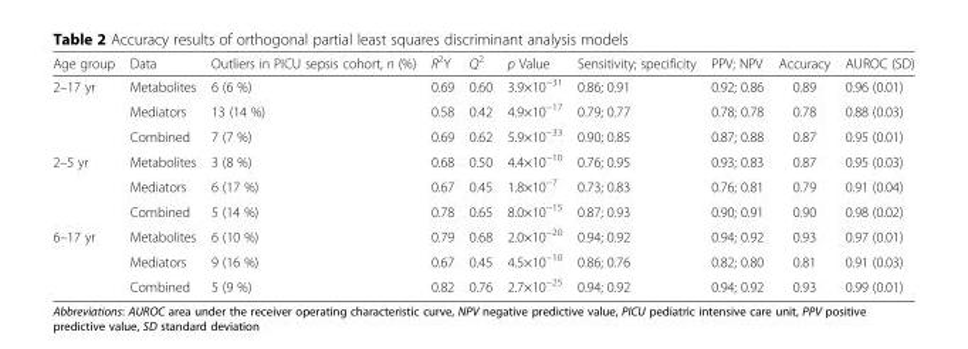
<table><thead><tr><td>Age group</td><td>Data</td><td>Outliers in PICU sepsis cohort, n (%)</td><td>R<sup>2</sup>Y</td><td>Q<sup>2</sup></td><td>p Value</td><td>Sensitivity; specificity</td><td>PPV; NPV</td><td>Accuracy</td><td>AUROC (SD)</td></tr></thead><tbody><tr><td rowspan="3">2–17 yr</td><td>Metabolites</td><td>6 (6 %)</td><td>0.69</td><td>0.60</td><td>3.9×10<sup>−31</sup></td><td>0.86; 0.91</td><td>0.92; 0.86</td><td>0.89</td><td>0.96 (0.01)</td></tr><tr><td>Mediators</td><td>13 (14 %)</td><td>0.58</td><td>0.42</td><td>4.9×10<sup>−17</sup></td><td>0.79; 0.77</td><td>0.78; 0.78</td><td>0.78</td><td>0.88 (0.03)</td></tr><tr><td>Combined</td><td>7 (7 %)</td><td>0.69</td><td>0.62</td><td>5.9×10<sup>−33</sup></td><td>0.90; 0.85</td><td>0.87; 0.88</td><td>0.87</td><td>0.95 (0.01)</td></tr><tr><td rowspan="3">2–5 yr</td><td>Metabolites</td><td>3 (8 %)</td><td>0.68</td><td>0.50</td><td>4.4×10<sup>−10</sup></td><td>0.76; 0.95</td><td>0.93; 0.83</td><td>0.87</td><td>0.95 (0.03)</td></tr><tr><td>Mediators</td><td>6 (17 %)</td><td>0.67</td><td>0.45</td><td>1.8×10<sup>−7</sup></td><td>0.73; 0.83</td><td>0.76; 0.81</td><td>0.79</td><td>0.91 (0.04)</td></tr><tr><td>Combined</td><td>5 (14 %)</td><td>0.78</td><td>0.65</td><td>8.0×10<sup>−15</sup></td><td>0.87; 0.93</td><td>0.90; 0.91</td><td>0.90</td><td>0.98 (0.02)</td></tr><tr><td rowspan="3">6–17 yr</td><td>Metabolites</td><td>6 (10 %)</td><td>0.79</td><td>0.68</td><td>2.0×10<sup>−20</sup></td><td>0.94; 0.92</td><td>0.94; 0.92</td><td>0.93</td><td>0.97 (0.01)</td></tr><tr><td>Mediators</td><td>9 (16 %)</td><td>0.67</td><td>0.45</td><td>4.5×10<sup>−10</sup></td><td>0.86; 0.76</td><td>0.82; 0.80</td><td>0.81</td><td>0.91 (0.03)</td></tr><tr><td>Combined</td><td>5 (9 %)</td><td>0.82</td><td>0.76</td><td>2.7×10<sup>−25</sup></td><td>0.94; 0.92</td><td>0.94; 0.92</td><td>0.93</td><td>0.99 (0.01)</td></tr></tbody></table>